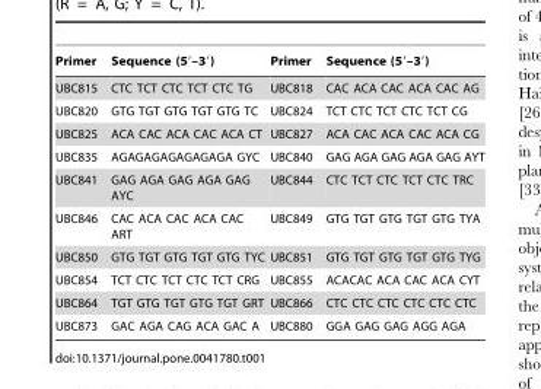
<table><thead><tr><td>Primer</td><td>Sequence (5′–3′)</td><td>Primer</td><td>Sequence (5′–3′)</td></tr></thead><tbody><tr><td>UBC815</td><td>CTC TCT CTC TCT CTC TG</td><td>UBC818</td><td>CAC ACA CAC ACA CAC AG</td></tr><tr><td>UBC820</td><td>GTG TGT GTG TGT GTG TC</td><td>UBC824</td><td>TCT CTC TCT CTC TCT CG</td></tr><tr><td>UBC825</td><td>ACA CAC ACA CAC ACA CT</td><td>UBC827</td><td>ACA CAC ACA CAC ACA CG</td></tr><tr><td>UBC835</td><td>AGAGAGAGAGAGAGA GYC</td><td>UBC840</td><td>GAG AGA GAG AGA GAG AYT</td></tr><tr><td>UBC841</td><td>GAG AGA GAG AGA GAG AYC</td><td>UBC844</td><td>CTC TCT CTC TCT CTC TRC</td></tr><tr><td>UBC846</td><td>CAC ACA CAC ACA CAC ART</td><td>UBC849</td><td>GTG TGT GTG TGT GTG TYA</td></tr><tr><td>UBC850</td><td>GTG TGT GTG TGT GTG TYC</td><td>UBC851</td><td>GTG TGT GTG TGT GTG TYG</td></tr><tr><td>UBC854</td><td>TCT CTC TCT CTC TCT CRG</td><td>UBC855</td><td>ACACAC ACA CAC ACA CYT</td></tr><tr><td>UBC864</td><td>TGT GTG TGT GTG TGT GRT</td><td>UBC866</td><td>CTC CTC CTC CTC CTC CTC</td></tr><tr><td>UBC873</td><td>GAC AGA CAG ACA GAC A</td><td>UBC880</td><td>GGA GAG GAG AGG AGA</td></tr></tbody></table>